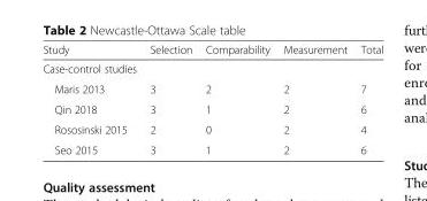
<table><thead><tr><td>Study</td><td>Selection</td><td>Comparability</td><td>Measurement</td><td>Total</td></tr></thead><tbody><tr><td colspan="5">Case-control studies</td></tr><tr><td>Maris 2013</td><td>3</td><td>2</td><td>2</td><td>7</td></tr><tr><td>Qin 2018</td><td>3</td><td>1</td><td>2</td><td>6</td></tr><tr><td>Rososinski 2015</td><td>2</td><td>0</td><td>2</td><td>4</td></tr><tr><td>Seo 2015</td><td>3</td><td>1</td><td>2</td><td>6</td></tr></tbody></table>